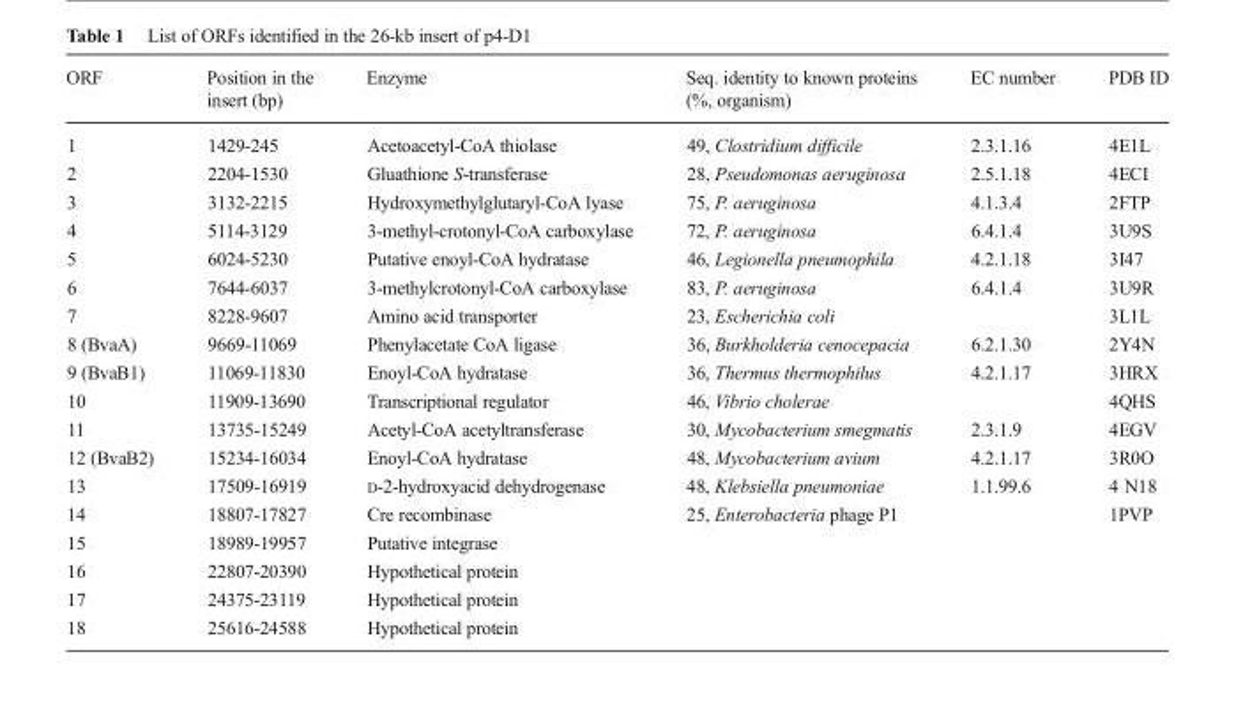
<table><thead><tr><td>ORF</td><td>Position in the insert (bp)</td><td>Enzyme</td><td>Seq. identity to known proteins (%, organism)</td><td>EC number</td><td>PDB ID</td></tr></thead><tbody><tr><td>1</td><td>1429-245</td><td>Acetoacetyl-CoA thiolase</td><td>49, Clostridium difficile</td><td>2.3.1.16</td><td>4E1L</td></tr><tr><td>2</td><td>2204-1530</td><td>Gluathione S-transferase</td><td>28, Pseudomonas aeruginosa</td><td>2.5.1.18</td><td>4ECI</td></tr><tr><td>3</td><td>3132-2215</td><td>Hydroxymethylglutaryl-CoA lyase</td><td>75, P. aeruginosa</td><td>4.1.3.4</td><td>2FTP</td></tr><tr><td>4</td><td>5114-3129</td><td>3-methyl-crotonyl-CoA carboxylase</td><td>72, P. aeruginosa</td><td>6.4.1.4</td><td>3U9S</td></tr><tr><td>5</td><td>6024-5230</td><td>Putative enoyl-CoA hydratase</td><td>46, Legionella pneumophila</td><td>4.2.1.18</td><td>3I47</td></tr><tr><td>6</td><td>7644-6037</td><td>3-methylcrotonyl-CoA carboxylase</td><td>83, P. aeruginosa</td><td>6.4.1.4</td><td>3U9R</td></tr><tr><td>7</td><td>8228-9607</td><td>Amino acid transporter</td><td>23, Escherichia coli</td><td></td><td>3L1L</td></tr><tr><td>8 (BvaA)</td><td>9669-11069</td><td>Phenylacetate CoA ligase</td><td>36, Burkholderia cenocepacia</td><td>6.2.1.30</td><td>2Y4N</td></tr><tr><td>9 (BvaB1)</td><td>11069-11830</td><td>Enoyl-CoA hydratase</td><td>36, Thermus thermophilus</td><td>4.2.1.17</td><td>3HRX</td></tr><tr><td>10</td><td>11909-13690</td><td>Transcriptional regulator</td><td>46, Vibrio cholerae</td><td></td><td>4QHS</td></tr><tr><td>11</td><td>13735-15249</td><td>Acetyl-CoA acetyltransferase</td><td>30, Mycobacterium smegmatis</td><td>2.3.1.9</td><td>4EGV</td></tr><tr><td>12 (BvaB2)</td><td>15234-16034</td><td>Enoyl-CoA hydratase</td><td>48, Mycobacterium avium</td><td>4.2.1.17</td><td>3R0O</td></tr><tr><td>13</td><td>17509-16919</td><td>D-2-hydroxyacid dehydrogenase</td><td>48, Klebsiella pneumoniae</td><td>1.1.99.6</td><td>4 N18</td></tr><tr><td>14</td><td>18807-17827</td><td>Cre recombinase</td><td>25, Enterobacteria phage P1</td><td></td><td>1PVP</td></tr><tr><td>15</td><td>18989-19957</td><td>Putative integrase</td><td></td><td></td><td></td></tr><tr><td>16</td><td>22807-20390</td><td>Hypothetical protein</td><td></td><td></td><td></td></tr><tr><td>17</td><td>24375-23119</td><td>Hypothetical protein</td><td></td><td></td><td></td></tr><tr><td>18</td><td>25616-24588</td><td>Hypothetical protein</td><td></td><td></td><td></td></tr></tbody></table>